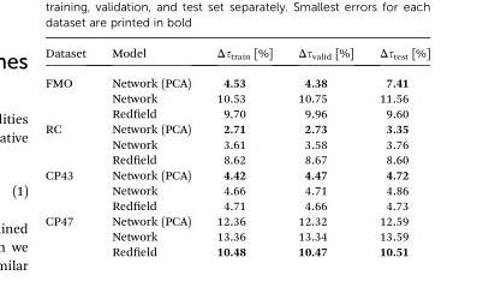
<table><thead><tr><td>Dataset</td><td>Model</td><td>Δτ<sub>train</sub> [%]</td><td>Δτ<sub>valid</sub> [%]</td><td>Δτ<sub>test</sub> [%]</td></tr></thead><tbody><tr><td rowspan="3">FMO</td><td>Network (PCA)</td><td>4.53</td><td>4.38</td><td>7.41</td></tr><tr><td>Network</td><td>10.53</td><td>10.75</td><td>11.56</td></tr><tr><td>Redeld</td><td>9.70</td><td>9.96</td><td>9.60</td></tr><tr><td rowspan="3">RC</td><td>Network (PCA)</td><td>2.71</td><td>2.73</td><td>3.35</td></tr><tr><td>Network</td><td>3.61</td><td>3.58</td><td>3.76</td></tr><tr><td>Redeld</td><td>8.62</td><td>8.67</td><td>8.60</td></tr><tr><td rowspan="3">CP43</td><td>Network (PCA)</td><td>4.42</td><td>4.47</td><td>4.72</td></tr><tr><td>Network</td><td>4.66</td><td>4.71</td><td>4.86</td></tr><tr><td>Redeld</td><td>4.71</td><td>4.66</td><td>4.73</td></tr><tr><td rowspan="3">CP47</td><td>Network (PCA)</td><td>12.36</td><td>12.32</td><td>12.59</td></tr><tr><td>Network</td><td>13.36</td><td>13.34</td><td>13.59</td></tr><tr><td>Redeld</td><td>10.48</td><td>10.47</td><td>10.51</td></tr></tbody></table>